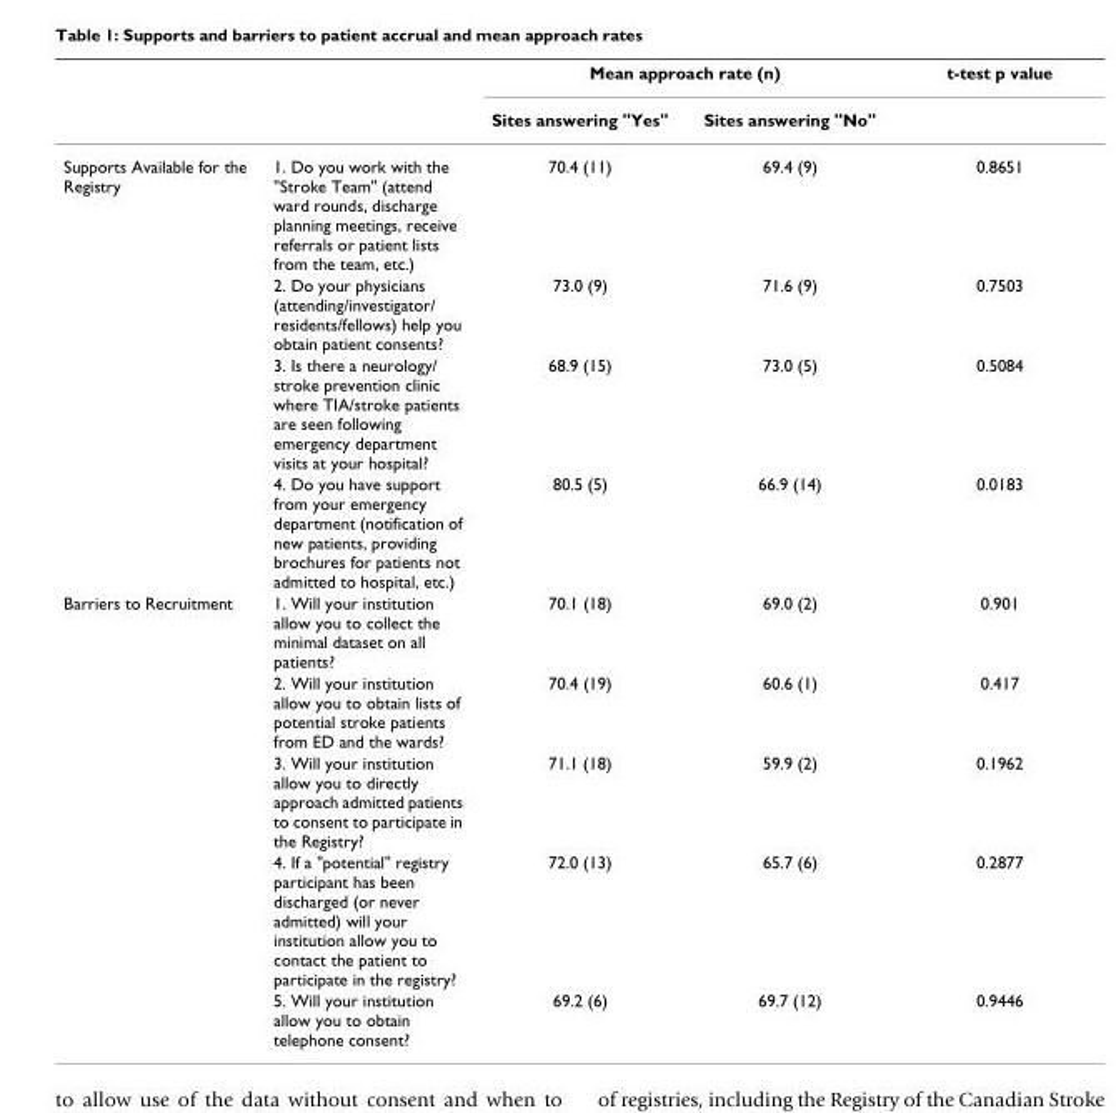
<table><thead><tr><td rowspan="2"></td><td rowspan="2"></td><td colspan="2">Mean approach rate (n)</td><td rowspan="2">t-test p value</td></tr><tr><td>Sites answering &quot;Yes&quot;</td><td>Sites answering &quot;No&quot;</td></tr></thead><tbody><tr><td rowspan="4">Supports Available for the Registry</td><td>1. Do you work with the &quot;Stroke Team&quot; (attend ward rounds, discharge planning meetings, receive referrals or patient lists from the team, etc.)</td><td>70.4 (11)</td><td>69.4 (9)</td><td>0.8651</td></tr><tr><td>2. Do your physicians (attending/investigator/ residents/fellows) help you obtain patient consents?</td><td>73.0 (9)</td><td>71.6 (9)</td><td>0.7503</td></tr><tr><td>3. Is there a neurology/ stroke prevention clinic where TIA/stroke patients are seen following emergency department visits at your hospital?</td><td>68.9 (15)</td><td>73.0 (5)</td><td>0.5084</td></tr><tr><td>4. Do you have support from your emergency department (notification of new patients, providing brochures for patients not admitted to hospital, etc.)</td><td>80.5 (5)</td><td>66.9 (14)</td><td>0.0183</td></tr><tr><td rowspan="5">Barriers to Recruitment</td><td>1. Will your institution allow you to collect the minimal dataset on all patients?</td><td>70.1 (18)</td><td>69.0 (2)</td><td>0.901</td></tr><tr><td>2. Will your institution allow you to obtain lists of potential stroke patients from ED and the wards?</td><td>70.4 (19)</td><td>60.6 (1)</td><td>0.417</td></tr><tr><td>3. Will your institution allow you to directly approach admitted patients to consent to participate in the Registry?</td><td>71.1 (18)</td><td>59.9 (2)</td><td>0.1962</td></tr><tr><td>4. If a &quot;potential&quot; registry participant has been discharged (or never admitted) will your institution allow you to contact the patient to participate in the registry?</td><td>72.0 (13)</td><td>65.7 (6)</td><td>0.2877</td></tr><tr><td>5. Will your institution allow you to obtain telephone consent?</td><td>69.2 (6)</td><td>69.7 (12)</td><td>0.9446</td></tr></tbody></table>